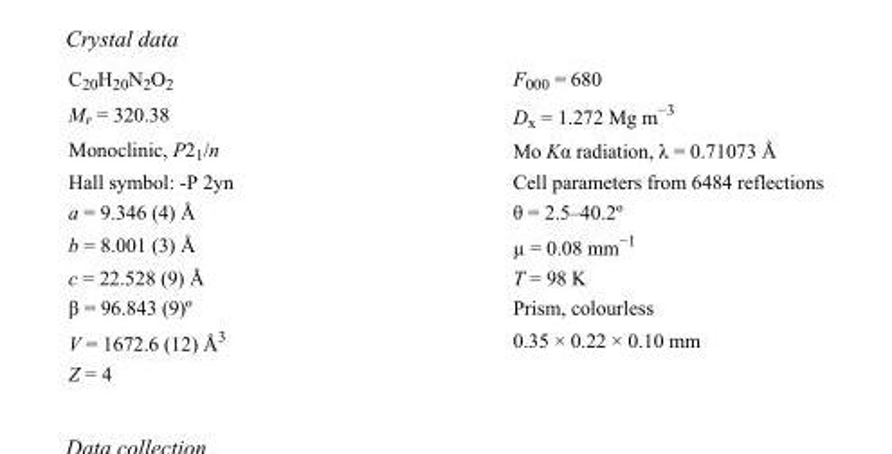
<table><tbody><tr><td>C<sub>20</sub>H<sub>20</sub>N<sub>2</sub>O<sub>2</sub></td><td>F000 = 680</td></tr><tr><td>M<sub>r</sub> = 320.38</td><td>D<sub>x</sub> = 1.272 Mg m<sup>−3</sup></td></tr><tr><td>Monoclinic, P2<sub>1</sub>/n</td><td>Mo Kα radiation, λ = 0.71073 Å</td></tr><tr><td>Hall symbol: -P 2yn</td><td>Cell parameters from 6484 reflections</td></tr><tr><td>a = 9.346 (4) Å</td><td>θ = 2.5–40.2º</td></tr><tr><td>b = 8.001 (3) Å</td><td>µ = 0.08 mm<sup>−1</sup></td></tr><tr><td>c = 22.528 (9) Å</td><td>T = 98 K</td></tr><tr><td>β = 96.843 (9)º</td><td>Prism, colourless</td></tr><tr><td>V = 1672.6 (12) Å<sup>3</sup></td><td>0.35 × 0.22 × 0.10 mm</td></tr><tr><td>Z = 4</td><td></td></tr></tbody></table>